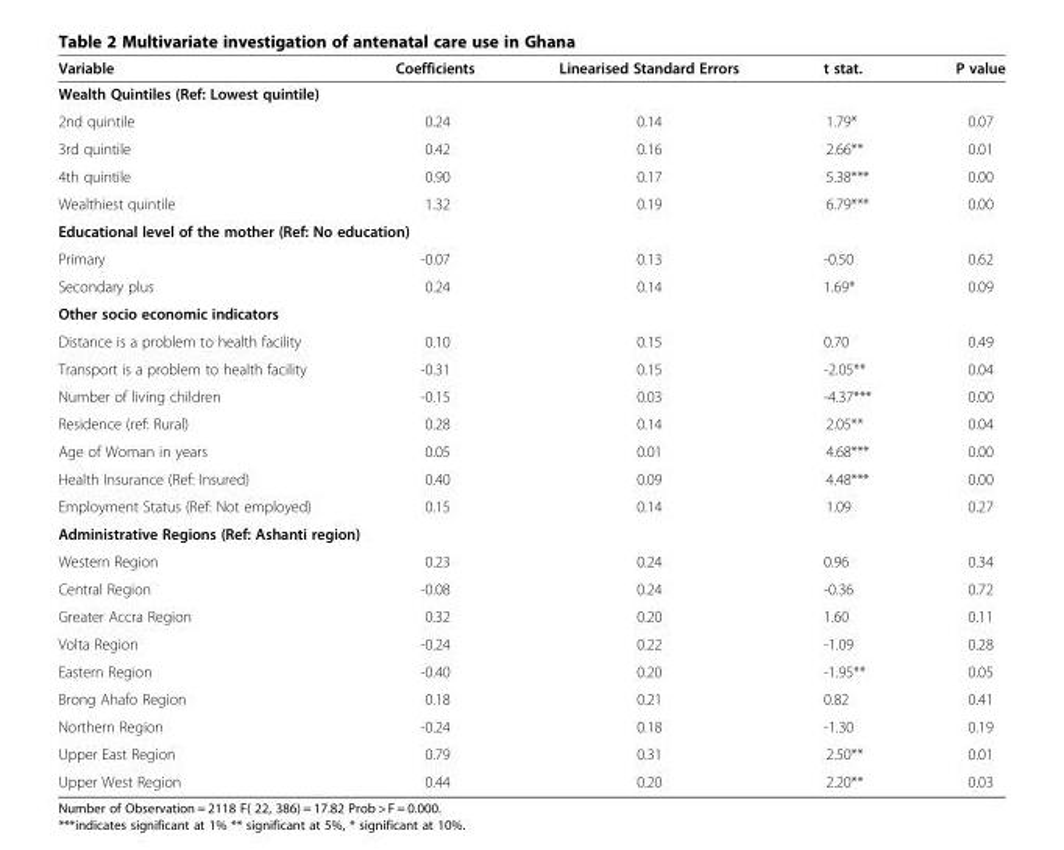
<table><thead><tr><td>Variable</td><td>Coefficients</td><td>Linearised Standard Errors</td><td>t stat.</td><td>P value</td></tr></thead><tbody><tr><td colspan="5">Wealth Quintiles (Ref: Lowest quintile)</td></tr><tr><td>2nd quintile</td><td>0.24</td><td>0.14</td><td>1.79*</td><td>0.07</td></tr><tr><td>3rd quintile</td><td>0.42</td><td>0.16</td><td>2.66**</td><td>0.01</td></tr><tr><td>4th quintile</td><td>0.90</td><td>0.17</td><td>5.38***</td><td>0.00</td></tr><tr><td>Wealthiest quintile</td><td>1.32</td><td>0.19</td><td>6.79***</td><td>0.00</td></tr><tr><td colspan="5">Educational level of the mother (Ref: No education)</td></tr><tr><td>Primary</td><td>-0.07</td><td>0.13</td><td>-0.50</td><td>0.62</td></tr><tr><td>Secondary plus</td><td>0.24</td><td>0.14</td><td>1.69*</td><td>0.09</td></tr><tr><td colspan="5">Other socio economic indicators</td></tr><tr><td>Distance is a problem to health facility</td><td>0.10</td><td>0.15</td><td>0.70</td><td>0.49</td></tr><tr><td>Transport is a problem to health facility</td><td>-0.31</td><td>0.15</td><td>-2.05**</td><td>0.04</td></tr><tr><td>Number of living children</td><td>-0.15</td><td>0.03</td><td>-4.37***</td><td>0.00</td></tr><tr><td>Residence (ref: Rural)</td><td>0.28</td><td>0.14</td><td>2.05**</td><td>0.04</td></tr><tr><td>Age of Woman in years</td><td>0.05</td><td>0.01</td><td>4.68***</td><td>0.00</td></tr><tr><td>Health Insurance (Ref: Insured)</td><td>0.40</td><td>0.09</td><td>4.48***</td><td>0.00</td></tr><tr><td>Employment Status (Ref: Not employed)</td><td>0.15</td><td>0.14</td><td>1.09</td><td>0.27</td></tr><tr><td colspan="5">Administrative Regions (Ref: Ashanti region)</td></tr><tr><td>Western Region</td><td>0.23</td><td>0.24</td><td>0.96</td><td>0.34</td></tr><tr><td>Central Region</td><td>-0.08</td><td>0.24</td><td>-0.36</td><td>0.72</td></tr><tr><td>Greater Accra Region</td><td>0.32</td><td>0.20</td><td>1.60</td><td>0.11</td></tr><tr><td>Volta Region</td><td>-0.24</td><td>0.22</td><td>-1.09</td><td>0.28</td></tr><tr><td>Eastern Region</td><td>-0.40</td><td>0.20</td><td>-1.95**</td><td>0.05</td></tr><tr><td>Brong Ahafo Region</td><td>0.18</td><td>0.21</td><td>0.82</td><td>0.41</td></tr><tr><td>Northern Region</td><td>-0.24</td><td>0.18</td><td>-1.30</td><td>0.19</td></tr><tr><td>Upper East Region</td><td>0.79</td><td>0.31</td><td>2.50**</td><td>0.01</td></tr><tr><td>Upper West Region</td><td>0.44</td><td>0.20</td><td>2.20**</td><td>0.03</td></tr></tbody></table>